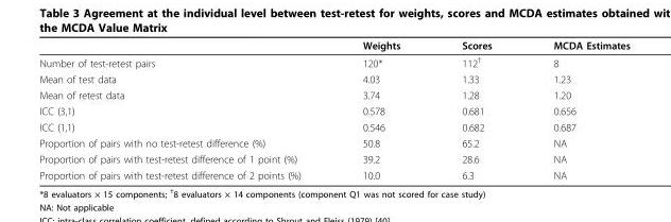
<table><thead><tr><td></td><td>Weights</td><td>Scores</td><td>MCDA Estimates</td></tr></thead><tbody><tr><td>Number of test-retest pairs</td><td>120*</td><td>112<sup>†</sup></td><td>8</td></tr><tr><td>Mean of test data</td><td>4.03</td><td>1.33</td><td>1.23</td></tr><tr><td>Mean of retest data</td><td>3.74</td><td>1.28</td><td>1.20</td></tr><tr><td>ICC (3,1)</td><td>0.578</td><td>0.681</td><td>0.656</td></tr><tr><td>ICC (1,1)</td><td>0.546</td><td>0.682</td><td>0.687</td></tr><tr><td>Proportion of pairs with no test-retest difference (%)</td><td>50.8</td><td>65.2</td><td>NA</td></tr><tr><td>Proportion of pairs with test-retest difference of 1 point (%)</td><td>39.2</td><td>28.6</td><td>NA</td></tr><tr><td>Proportion of pairs with test-retest difference of 2 points (%)</td><td>10.0</td><td>6.3</td><td>NA</td></tr></tbody></table>